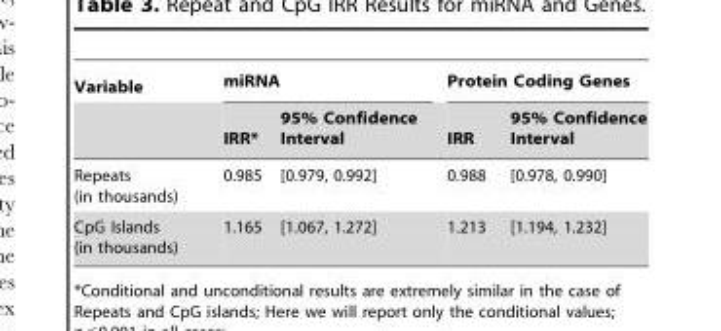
<table><thead><tr><td rowspan="2">Variable</td><td colspan="2">miRNA</td><td colspan="2">Protein Coding Genes</td></tr><tr><td>IRR*</td><td>95% Confidence Interval</td><td>IRR</td><td>95% Confidence Interval</td></tr></thead><tbody><tr><td>Repeats (in thousands)</td><td>0.985</td><td>[0.979, 0.992]</td><td>0.988</td><td>[0.978, 0.990]</td></tr><tr><td>CpG Islands (in thousands)</td><td>1.165</td><td>[1.067, 1.272]</td><td>1.213</td><td>[1.194, 1.232]</td></tr></tbody></table>